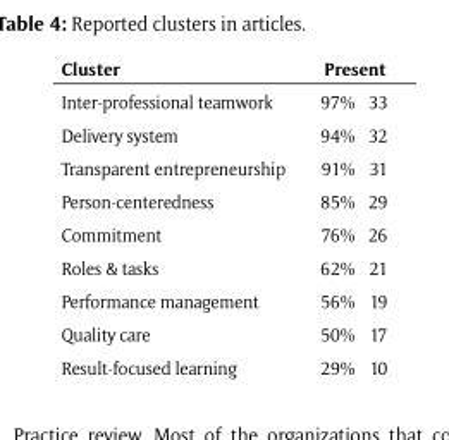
<table><thead><tr><td rowspan="2">Cluster Inter-professional teamwork</td><td colspan="2">Present</td></tr><tr><td>97%</td><td>33</td></tr></thead><tbody><tr><td>Delivery system</td><td>94%</td><td>32</td></tr><tr><td>Transparent entrepreneurship</td><td>91%</td><td>31</td></tr><tr><td>Person-centeredness</td><td>85%</td><td>29</td></tr><tr><td>Commitment</td><td>76%</td><td>26</td></tr><tr><td>Roles &amp; tasks</td><td>62%</td><td>21</td></tr><tr><td>Performance management</td><td>56%</td><td>19</td></tr><tr><td>Quality care</td><td>50%</td><td>17</td></tr><tr><td>Result-focused learning</td><td>29%</td><td>10</td></tr></tbody></table>